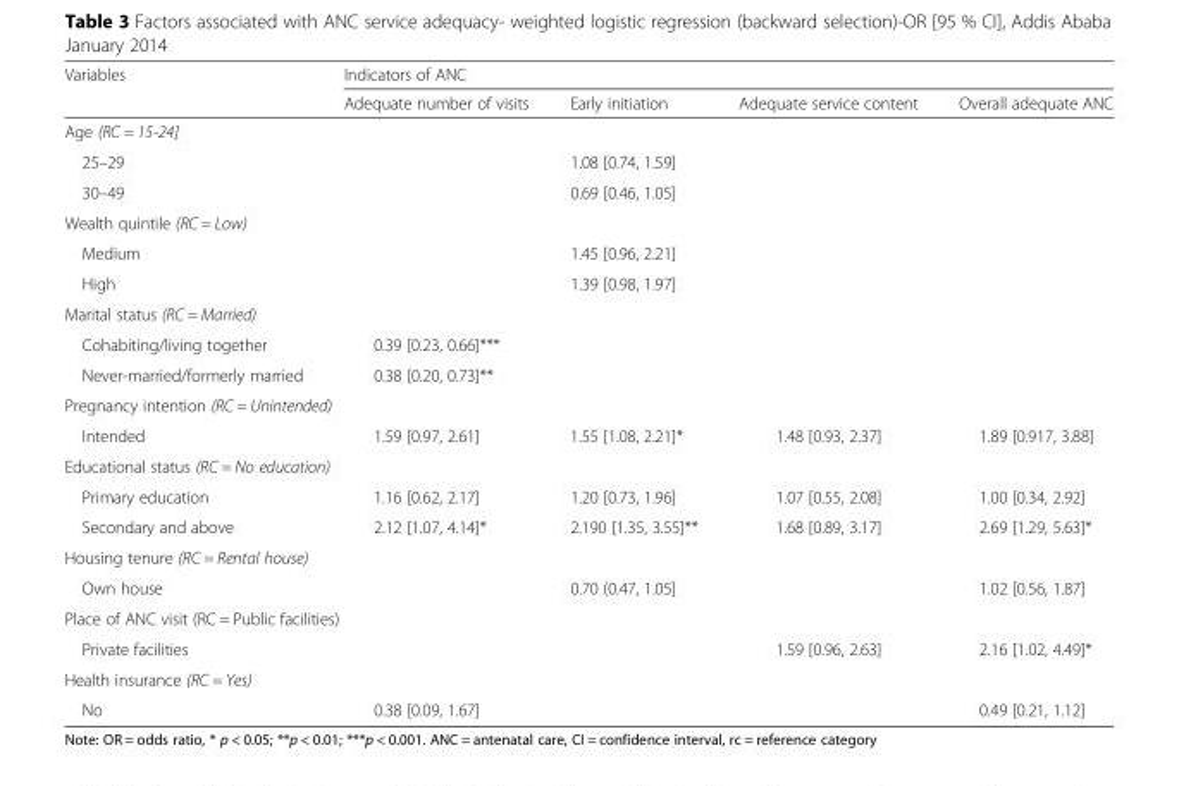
<table><thead><tr><td rowspan="2">Variables</td><td colspan="4">Indicators of ANC</td></tr><tr><td>Adequate number of visits</td><td>Early initiation</td><td>Adequate service content</td><td>Overall adequate ANC</td></tr></thead><tbody><tr><td colspan="5">Age (RC = 15-24]</td></tr><tr><td>25–29</td><td></td><td>1.08 [0.74, 1.59]</td><td></td><td></td></tr><tr><td>30–49</td><td></td><td>0.69 [0.46, 1.05]</td><td></td><td></td></tr><tr><td colspan="5">Wealth quintile (RC = Low)</td></tr><tr><td>Medium</td><td></td><td>1.45 [0.96, 2.21]</td><td></td><td></td></tr><tr><td>High</td><td></td><td>1.39 [0.98, 1.97]</td><td></td><td></td></tr><tr><td colspan="5">Marital status (RC = Married)</td></tr><tr><td>Cohabiting/living together</td><td>0.39 [0.23, 0.66]***</td><td></td><td></td><td></td></tr><tr><td>Never-married/formerly married</td><td>0.38 [0.20, 0.73]**</td><td></td><td></td><td></td></tr><tr><td colspan="5">Pregnancy intention (RC = Unintended)</td></tr><tr><td>Intended</td><td>1.59 [0.97, 2.61]</td><td>1.55 [1.08, 2.21]*</td><td>1.48 [0.93, 2.37]</td><td>1.89 [0.917, 3.88]</td></tr><tr><td colspan="5">Educational status (RC = No education)</td></tr><tr><td>Primary education</td><td>1.16 [0.62, 2.17]</td><td>1.20 [0.73, 1.96]</td><td>1.07 [0.55, 2.08]</td><td>1.00 [0.34, 2.92]</td></tr><tr><td>Secondary and above</td><td>2.12 [1.07, 4.14]*</td><td>2.190 [1.35, 3.55]**</td><td>1.68 [0.89, 3.17]</td><td>2.69 [1.29, 5.63]*</td></tr><tr><td colspan="5">Housing tenure (RC = Rental house)</td></tr><tr><td>Own house</td><td></td><td>0.70 (0.47, 1.05]</td><td></td><td>1.02 [0.56, 1.87]</td></tr><tr><td colspan="5">Place of ANC visit (RC = Public facilities)</td></tr><tr><td>Private facilities</td><td></td><td></td><td>1.59 [0.96, 2.63]</td><td>2.16 [1.02, 4.49]*</td></tr><tr><td colspan="5">Health insurance (RC = Yes)</td></tr><tr><td>No</td><td>0.38 [0.09, 1.67]</td><td></td><td></td><td>0.49 [0.21, 1.12]</td></tr></tbody></table>